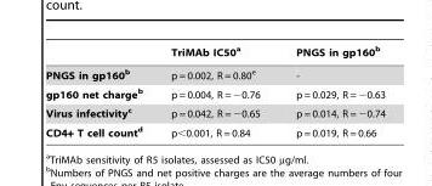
<table><thead><tr><td></td><td>TriMAb IC50<sup>a</sup></td><td>PNGS in gp160<sup>b</sup></td></tr></thead><tbody><tr><td>PNGS in gp160b</td><td>p = 0.002, R = 0.80<sup>e</sup></td><td>-</td></tr><tr><td>gp160 net chargeb</td><td>p = 0.004, R = −0.76</td><td>p = 0.029, R = −0.63</td></tr><tr><td>Virus infectivityc</td><td>p = 0.042, R = −0.65</td><td>p = 0.014, R = −0.74</td></tr><tr><td>CD4+ T cell countd</td><td>p&lt;0.001, R = 0.84</td><td>p = 0.019, R = 0.66</td></tr></tbody></table>